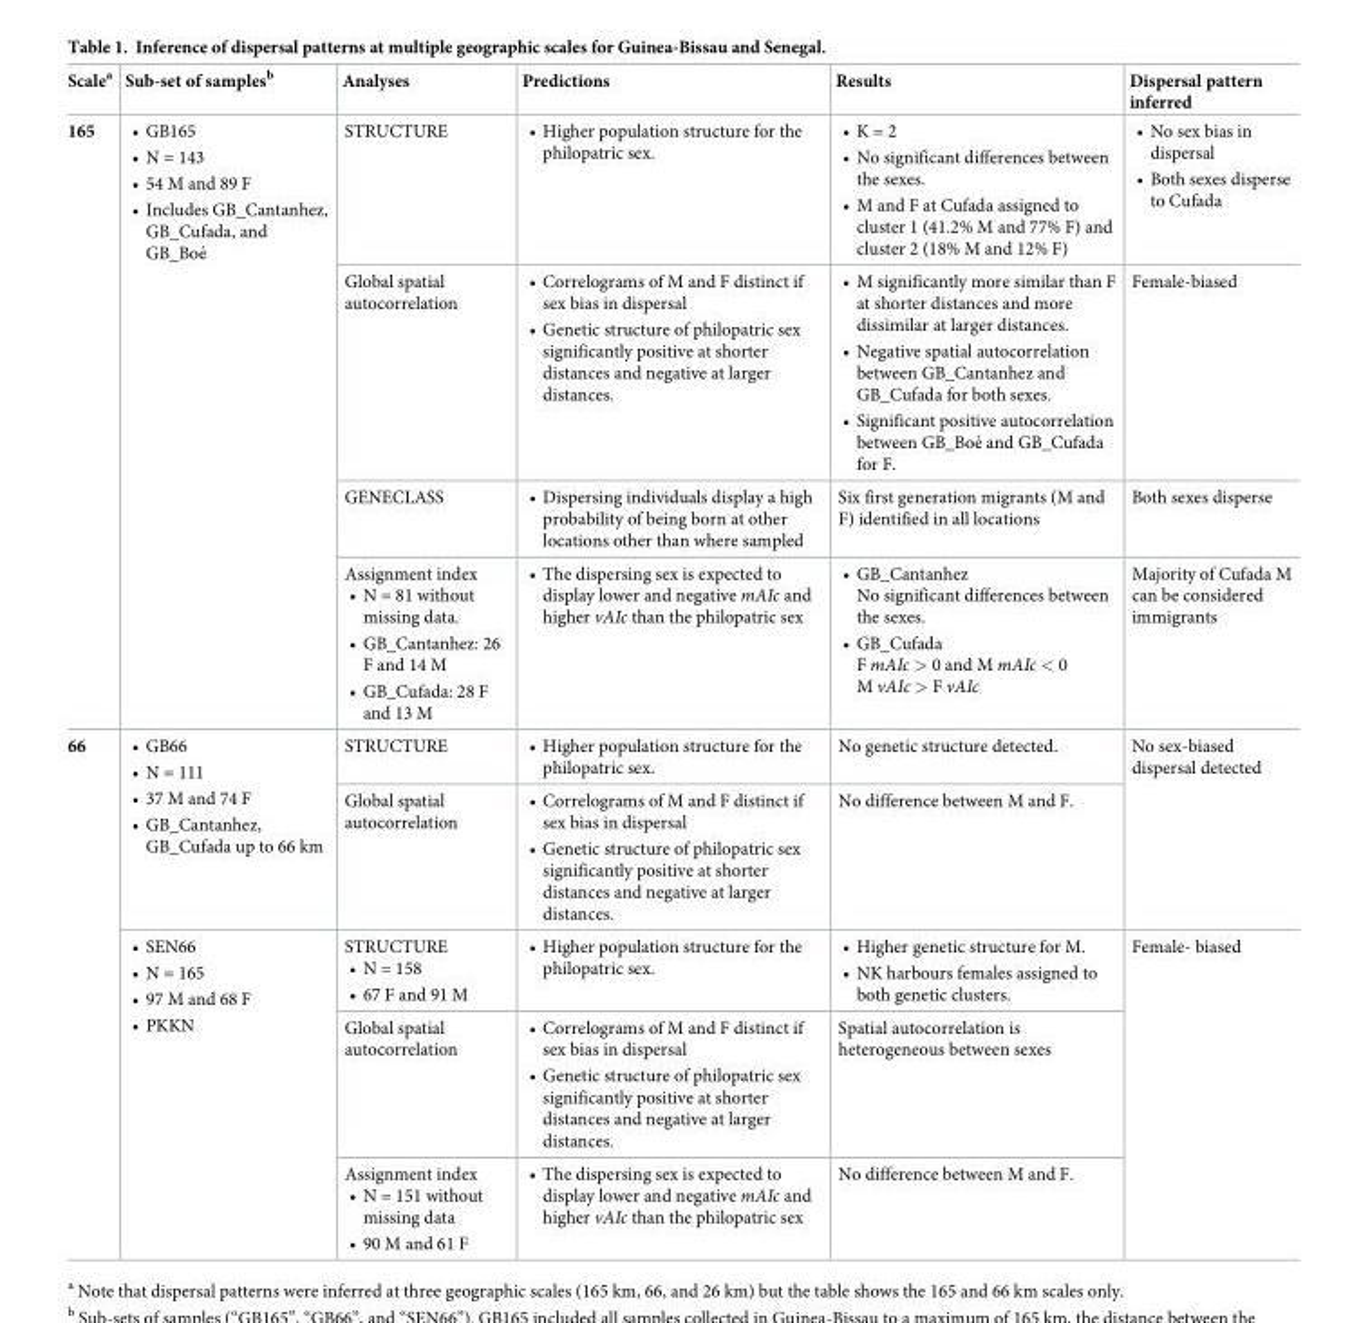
<table><thead><tr><td>Scale<sup>a</sup></td><td>Sub-set of samples<sup>b</sup></td><td>Analyses</td><td>Predictions</td><td>Results</td><td>Dispersal pattern inferred</td></tr></thead><tbody><tr><td rowspan="4">165</td><td rowspan="4">• GB165 • N = 143 • 54 M and 89 F • Includes GB_Cantanhez, GB_Cufada, and GB_Boe´</td><td>STRUCTURE</td><td>• Higher population structure for the philopatric sex.</td><td>• K = 2 • No significant differences between the sexes. • M and F at Cufada assigned to cluster 1 (41.2% M and 77% F) and cluster 2 (18% M and 12% F)</td><td>• No sex bias in dispersal • Both sexes disperse to Cufada</td></tr><tr><td>Global spatial autocorrelation</td><td>• Correlograms of M and F distinct if sex bias in dispersal • Genetic structure of philopatric sex significantly positive at shorter distances and negative at larger distances.</td><td>• M significantly more similar than F at shorter distances and more dissimilar at larger distances. • Negative spatial autocorrelation between GB_Cantanhez and GB_Cufada for both sexes. • Significant positive autocorrelation between GB_Boe´ and GB_Cufada for F.</td><td>Female-biased</td></tr><tr><td>GENECLASS</td><td>• Dispersing individuals display a high probability of being born at other locations other than where sampled</td><td>Six first generation migrants (M and F) identified in all locations</td><td>Both sexes disperse</td></tr><tr><td>Assignment index • N = 81 without missing data. • GB_Cantanhez: 26 F and 14 M • GB_Cufada: 28 F and 13 M</td><td>• The dispersing sex is expected to display lower and negative mAIc and higher vAIc than the philopatric sex</td><td>• GB_Cantanhez No significant differences between the sexes. • GB_Cufada F mAIc &gt; 0 and M mAIc &lt; 0 M vAIc &gt; F vAIc</td><td>Majority of Cufada M can be considered immigrants</td></tr><tr><td rowspan="5">66</td><td rowspan="2">• GB66 • N = 111 • 37 M and 74 F • GB_Cantanhez, GB_Cufada up to 66 km</td><td>STRUCTURE</td><td>• Higher population structure for the philopatric sex.</td><td>No genetic structure detected.</td><td rowspan="2">No sex-biased dispersal detected</td></tr><tr><td>Global spatial autocorrelation</td><td>• Correlograms of M and F distinct if sex bias in dispersal • Genetic structure of philopatric sex significantly positive at shorter distances and negative at larger distances.</td><td>No difference between M and F.</td></tr><tr><td rowspan="3">• SEN66 • N = 165 • 97 M and 68 F • PKKN</td><td>STRUCTURE • N = 158 • 67 F and 91 M</td><td>• Higher population structure for the philopatric sex.</td><td>• Higher genetic structure for M. • NK harbours females assigned to both genetic clusters.</td><td rowspan="3">Female- biased</td></tr><tr><td>Global spatial autocorrelation</td><td>• Correlograms of M and F distinct if sex bias in dispersal • Genetic structure of philopatric sex significantly positive at shorter distances and negative at larger distances.</td><td>Spatial autocorrelation is heterogeneous between sexes</td></tr><tr><td>Assignment index • N = 151 without missing data • 90 M and 61 F</td><td>• The dispersing sex is expected to display lower and negative mAIc and higher vAIc than the philopatric sex</td><td>No difference between M and F.</td></tr></tbody></table>